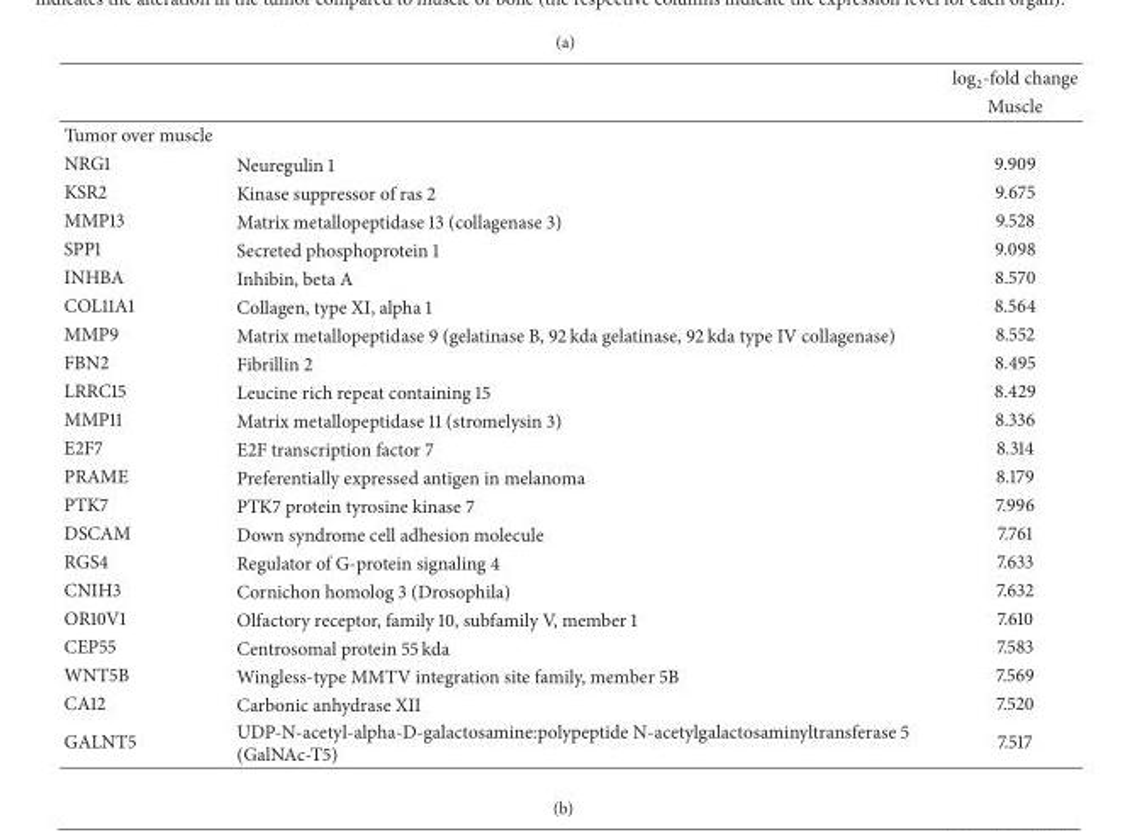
<table><thead><tr><td rowspan="2"></td><td rowspan="2"></td><td rowspan="2">log<sub>2</sub>-fold change Muscle</td></tr><tr></tr></thead><tbody><tr><td colspan="3">Tumor over muscle</td></tr><tr><td>NRG1</td><td>Neuregulin 1</td><td>9.909</td></tr><tr><td>KSR2</td><td>Kinase suppressor of ras 2</td><td>9.675</td></tr><tr><td>MMP13</td><td>Matrix metallopeptidase 13 (collagenase 3)</td><td>9.528</td></tr><tr><td>SPP1</td><td>Secreted phosphoprotein 1</td><td>9.098</td></tr><tr><td>INHBA</td><td>Inhibin, beta A</td><td>8.570</td></tr><tr><td>COL11A1</td><td>Collagen, type XI, alpha 1</td><td>8.564</td></tr><tr><td>MMP9</td><td>Matrix metallopeptidase 9 (gelatinase B, 92 kda gelatinase, 92 kda type IV collagenase)</td><td>8.552</td></tr><tr><td>FBN2</td><td>Fibrillin 2</td><td>8.495</td></tr><tr><td>LRRC15</td><td>Leucine rich repeat containing 15</td><td>8.429</td></tr><tr><td>MMP11</td><td>Matrix metallopeptidase 11 (stromelysin 3)</td><td>8.336</td></tr><tr><td>E2F7</td><td>E2F transcription factor 7</td><td>8.314</td></tr><tr><td>PRAME</td><td>Preferentially expressed antigen in melanoma</td><td>8.179</td></tr><tr><td>PTK7</td><td>PTK7 protein tyrosine kinase 7</td><td>7.996</td></tr><tr><td>DSCAM</td><td>Down syndrome cell adhesion molecule</td><td>7.761</td></tr><tr><td>RGS4</td><td>Regulator of G-protein signaling 4</td><td>7.633</td></tr><tr><td>CNIH3</td><td>Cornichon homolog 3 (Drosophila)</td><td>7.632</td></tr><tr><td>OR10V1</td><td>Olfactory receptor, family 10, subfamily V, member 1</td><td>7.610</td></tr><tr><td>CEP55</td><td>Centrosomal protein 55 kda</td><td>7.583</td></tr><tr><td>WNT5B</td><td>Wingless-type MMTV integration site family, member 5B</td><td>7.569</td></tr><tr><td>CA12</td><td>Carbonic anhydrase XII</td><td>7.520</td></tr><tr><td>GALNT5</td><td>UDP-N-acetyl-alpha-D-galactosamine:polypeptide N-acetylgalactosaminyltransferase 5 (GalNAc-T5)</td><td>7.517</td></tr></tbody></table>